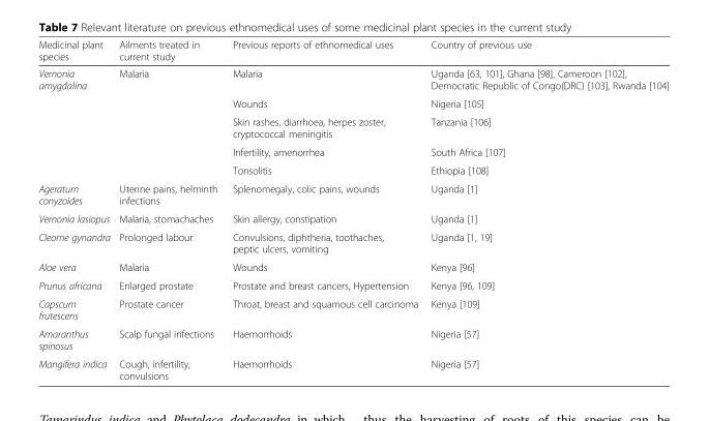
<table><thead><tr><td>Medicinal plant species</td><td>Ailments treated in current study</td><td>Previous reports of ethnomedical uses</td><td>Country of previous use</td></tr></thead><tbody><tr><td rowspan="5">Vernonia amygdalina</td><td rowspan="5">Malaria</td><td>Malaria</td><td>Uganda [63, 101], Ghana [98], Cameroon [102], Democratic Republic of Congo(DRC) [103], Rwanda [104]</td></tr><tr><td>Wounds</td><td>Nigeria [105]</td></tr><tr><td>Skin rashes, diarrhoea, herpes zoster, cryptococcal meningitis</td><td>Tanzania [106]</td></tr><tr><td>Infertility, amenorrhea</td><td>South Africa [107]</td></tr><tr><td>Tonsolitis</td><td>Ethiopia [108]</td></tr><tr><td>Ageratum conyzoides</td><td>Uterine pains, helminth infections</td><td>Splenomegaly, colic pains, wounds</td><td>Uganda [1]</td></tr><tr><td>Vernonia lasiopus</td><td>Malaria, stomachaches</td><td>Skin allergy, constipation</td><td>Uganda [1]</td></tr><tr><td>Cleome gynandra</td><td>Prolonged labour</td><td>Convulsions, diphtheria, toothaches, peptic ulcers, vomiting</td><td>Uganda [1, 19]</td></tr><tr><td>Aloe vera</td><td>Malaria</td><td>Wounds</td><td>Kenya [96]</td></tr><tr><td>Prunus africana</td><td>Enlarged prostate</td><td>Prostate and breast cancers, Hypertension</td><td>Kenya [96, 109]</td></tr><tr><td>Capscum frutescens</td><td>Prostate cancer</td><td>Throat, breast and squamous cell carcinoma</td><td>Kenya [109]</td></tr><tr><td>Amaranthus spinosus</td><td>Scalp fungal infections</td><td>Haemorrhoids</td><td>Nigeria [57]</td></tr><tr><td>Mangifera indica</td><td>Cough, infertility, convulsions</td><td>Haemorrhoids</td><td>Nigeria [57]</td></tr></tbody></table>